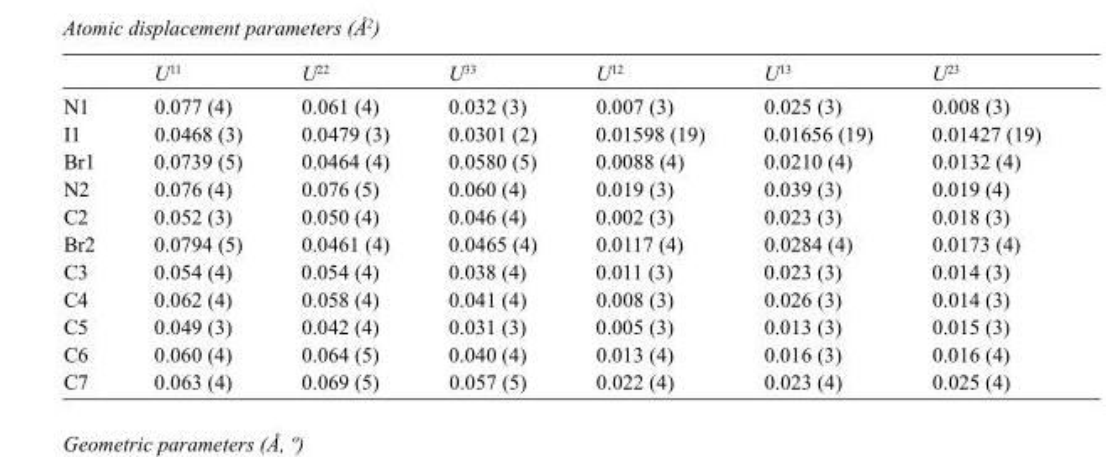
<table><thead><tr><td></td><td>U<sup>11</sup></td><td>U<sup>22</sup></td><td>U<sup>33</sup></td><td>U<sup>12</sup></td><td>U<sup>13</sup></td><td>U<sup>23</sup></td></tr></thead><tbody><tr><td>N1</td><td>0.077 (4)</td><td>0.061 (4)</td><td>0.032 (3)</td><td>0.007 (3)</td><td>0.025 (3)</td><td>0.008 (3)</td></tr><tr><td>I1</td><td>0.0468 (3)</td><td>0.0479 (3)</td><td>0.0301 (2)</td><td>0.01598 (19)</td><td>0.01656 (19)</td><td>0.01427 (19)</td></tr><tr><td>Br1</td><td>0.0739 (5)</td><td>0.0464 (4)</td><td>0.0580 (5)</td><td>0.0088 (4)</td><td>0.0210 (4)</td><td>0.0132 (4)</td></tr><tr><td>N2</td><td>0.076 (4)</td><td>0.076 (5)</td><td>0.060 (4)</td><td>0.019 (3)</td><td>0.039 (3)</td><td>0.019 (4)</td></tr><tr><td>C2</td><td>0.052 (3)</td><td>0.050 (4)</td><td>0.046 (4)</td><td>0.002 (3)</td><td>0.023 (3)</td><td>0.018 (3)</td></tr><tr><td>Br2</td><td>0.0794 (5)</td><td>0.0461 (4)</td><td>0.0465 (4)</td><td>0.0117 (4)</td><td>0.0284 (4)</td><td>0.0173 (4)</td></tr><tr><td>C3</td><td>0.054 (4)</td><td>0.054 (4)</td><td>0.038 (4)</td><td>0.011 (3)</td><td>0.023 (3)</td><td>0.014 (3)</td></tr><tr><td>C4</td><td>0.062 (4)</td><td>0.058 (4)</td><td>0.041 (4)</td><td>0.008 (3)</td><td>0.026 (3)</td><td>0.014 (3)</td></tr><tr><td>C5</td><td>0.049 (3)</td><td>0.042 (4)</td><td>0.031 (3)</td><td>0.005 (3)</td><td>0.013 (3)</td><td>0.015 (3)</td></tr><tr><td>C6</td><td>0.060 (4)</td><td>0.064 (5)</td><td>0.040 (4)</td><td>0.013 (4)</td><td>0.016 (3)</td><td>0.016 (4)</td></tr><tr><td>C7</td><td>0.063 (4)</td><td>0.069 (5)</td><td>0.057 (5)</td><td>0.022 (4)</td><td>0.023 (4)</td><td>0.025 (4)</td></tr></tbody></table>